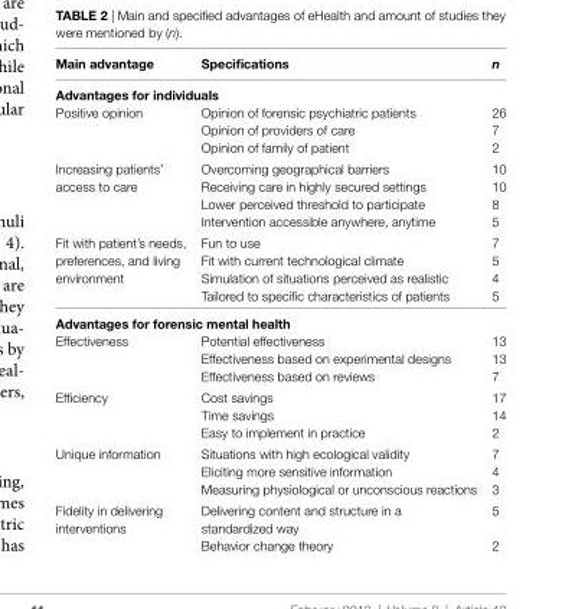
<table><thead><tr><td>main advantage</td><td>Specifications</td><td>n</td></tr></thead><tbody><tr><td colspan="3">advantages for individuals</td></tr><tr><td rowspan="3">Positive opinion</td><td>Opinion of forensic psychiatric patients</td><td>26</td></tr><tr><td>Opinion of providers of care</td><td>7</td></tr><tr><td>Opinion of family of patient</td><td>2</td></tr><tr><td rowspan="4">Increasing patients’ access to care</td><td>Overcoming geographical barriers</td><td>10</td></tr><tr><td>Receiving care in highly secured settings</td><td>10</td></tr><tr><td>Lower perceived threshold to participate</td><td>8</td></tr><tr><td>Intervention accessible anywhere, anytime</td><td>5</td></tr><tr><td rowspan="4">Fit with patient’s needs, preferences, and living environment</td><td>Fun to use</td><td>7</td></tr><tr><td>Fit with current technological climate</td><td>5</td></tr><tr><td>Simulation of situations perceived as realistic</td><td>4</td></tr><tr><td>Tailored to specific characteristics of patients</td><td>5</td></tr><tr><td colspan="3">advantages for forensic mental health</td></tr><tr><td rowspan="3">Effectiveness</td><td>Potential effectiveness</td><td>13</td></tr><tr><td>Effectiveness based on experimental designs</td><td>13</td></tr><tr><td>Effectiveness based on reviews</td><td>7</td></tr><tr><td rowspan="3">Efficiency</td><td>Cost savings</td><td>17</td></tr><tr><td>Time savings</td><td>14</td></tr><tr><td>Easy to implement in practice</td><td>2</td></tr><tr><td rowspan="3">Unique information</td><td>Situations with high ecological validity</td><td>7</td></tr><tr><td>Eliciting more sensitive information</td><td>4</td></tr><tr><td>Measuring physiological or unconscious reactions</td><td>3</td></tr><tr><td rowspan="2">Fidelity in delivering interventions</td><td>Delivering content and structure in a standardized way</td><td>5</td></tr><tr><td>Behavior change theory</td><td>2</td></tr></tbody></table>